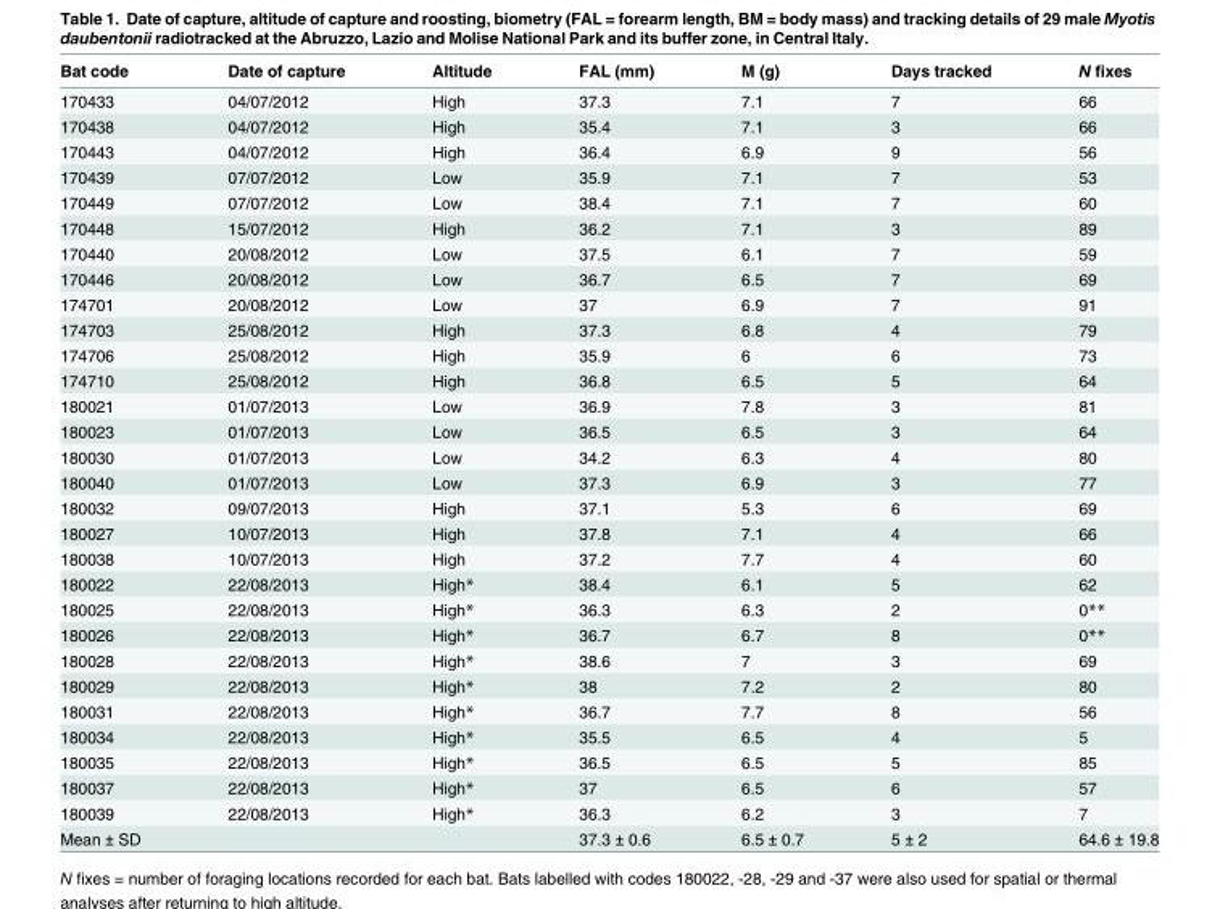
<table><thead><tr><td>Bat code</td><td>Date of capture</td><td>Altitude</td><td>FAL (mm)</td><td>M (g)</td><td>Days tracked</td><td>N fixes</td></tr></thead><tbody><tr><td>170433</td><td>04/07/2012</td><td>High</td><td>37.3</td><td>7.1</td><td>7</td><td>66</td></tr><tr><td>170438</td><td>04/07/2012</td><td>High</td><td>35.4</td><td>7.1</td><td>3</td><td>66</td></tr><tr><td>170443</td><td>04/07/2012</td><td>High</td><td>36.4</td><td>6.9</td><td>9</td><td>56</td></tr><tr><td>170439</td><td>07/07/2012</td><td>Low</td><td>35.9</td><td>7.1</td><td>7</td><td>53</td></tr><tr><td>170449</td><td>07/07/2012</td><td>Low</td><td>38.4</td><td>7.1</td><td>7</td><td>60</td></tr><tr><td>170448</td><td>15/07/2012</td><td>High</td><td>36.2</td><td>7.1</td><td>3</td><td>89</td></tr><tr><td>170440</td><td>20/08/2012</td><td>Low</td><td>37.5</td><td>6.1</td><td>7</td><td>59</td></tr><tr><td>170446</td><td>20/08/2012</td><td>Low</td><td>36.7</td><td>6.5</td><td>7</td><td>69</td></tr><tr><td>174701</td><td>20/08/2012</td><td>Low</td><td>37</td><td>6.9</td><td>7</td><td>91</td></tr><tr><td>174703</td><td>25/08/2012</td><td>High</td><td>37.3</td><td>6.8</td><td>4</td><td>79</td></tr><tr><td>174706</td><td>25/08/2012</td><td>High</td><td>35.9</td><td>6</td><td>6</td><td>73</td></tr><tr><td>174710</td><td>25/08/2012</td><td>High</td><td>36.8</td><td>6.5</td><td>5</td><td>64</td></tr><tr><td>180021</td><td>01/07/2013</td><td>Low</td><td>36.9</td><td>7.8</td><td>3</td><td>81</td></tr><tr><td>180023</td><td>01/07/2013</td><td>Low</td><td>36.5</td><td>6.5</td><td>3</td><td>64</td></tr><tr><td>180030</td><td>01/07/2013</td><td>Low</td><td>34.2</td><td>6.3</td><td>4</td><td>80</td></tr><tr><td>180040</td><td>01/07/2013</td><td>Low</td><td>37.3</td><td>6.9</td><td>3</td><td>77</td></tr><tr><td>180032</td><td>09/07/2013</td><td>High</td><td>37.1</td><td>5.3</td><td>6</td><td>69</td></tr><tr><td>180027</td><td>10/07/2013</td><td>High</td><td>37.8</td><td>7.1</td><td>4</td><td>66</td></tr><tr><td>180038</td><td>10/07/2013</td><td>High</td><td>37.2</td><td>7.7</td><td>4</td><td>60</td></tr><tr><td>180022</td><td>22/08/2013</td><td>High*</td><td>38.4</td><td>6.1</td><td>5</td><td>62</td></tr><tr><td>180025</td><td>22/08/2013</td><td>High*</td><td>36.3</td><td>6.3</td><td>2</td><td>0**</td></tr><tr><td>180026</td><td>22/08/2013</td><td>High*</td><td>36.7</td><td>6.7</td><td>8</td><td>0**</td></tr><tr><td>180028</td><td>22/08/2013</td><td>High*</td><td>38.6</td><td>7</td><td>3</td><td>69</td></tr><tr><td>180029</td><td>22/08/2013</td><td>High*</td><td>38</td><td>7.2</td><td>2</td><td>80</td></tr><tr><td>180031</td><td>22/08/2013</td><td>High*</td><td>36.7</td><td>7.7</td><td>8</td><td>56</td></tr><tr><td>180034</td><td>22/08/2013</td><td>High*</td><td>35.5</td><td>6.5</td><td>4</td><td>5</td></tr><tr><td>180035</td><td>22/08/2013</td><td>High*</td><td>36.5</td><td>6.5</td><td>5</td><td>85</td></tr><tr><td>180037</td><td>22/08/2013</td><td>High*</td><td>37</td><td>6.5</td><td>6</td><td>57</td></tr><tr><td>180039</td><td>22/08/2013</td><td>High*</td><td>36.3</td><td>6.2</td><td>3</td><td>7</td></tr><tr><td>Mean ± SD</td><td></td><td></td><td>37.3 ± 0.6</td><td>6.5 ± 0.7</td><td>5 ± 2</td><td>64.6 ± 19.8</td></tr></tbody></table>